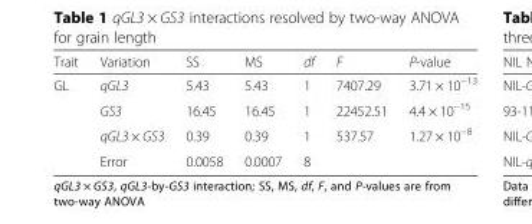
<table><thead><tr><td>Trait</td><td>Variation</td><td>SS</td><td>MS</td><td>df</td><td>F</td><td>P-value</td></tr></thead><tbody><tr><td rowspan="4">GL</td><td>qGL3</td><td>5.43</td><td>5.43</td><td>1</td><td>7407.29</td><td>3.71 × 10<sup>−13</sup></td></tr><tr><td>GS3</td><td>16.45</td><td>16.45</td><td>1</td><td>22452.51</td><td>4.4 × 10<sup>−15</sup></td></tr><tr><td>qGL3 × GS3</td><td>0.39</td><td>0.39</td><td>1</td><td>537.57</td><td>1.27 × 10<sup>−8</sup></td></tr><tr><td>Error</td><td>0.0058</td><td>0.0007</td><td>8</td><td></td><td></td></tr></tbody></table>